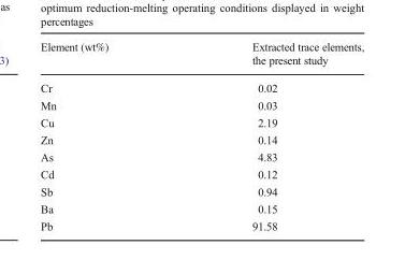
<table><thead><tr><td>Element (wt%)</td><td>Extracted trace elements, the present study</td></tr></thead><tbody><tr><td>Cr</td><td>0.02</td></tr><tr><td>Mn</td><td>0.03</td></tr><tr><td>Cu</td><td>2.19</td></tr><tr><td>Zn</td><td>0.14</td></tr><tr><td>As</td><td>4.83</td></tr><tr><td>Cd</td><td>0.12</td></tr><tr><td>Sb</td><td>0.94</td></tr><tr><td>Ba</td><td>0.15</td></tr><tr><td>Pb</td><td>91.58</td></tr></tbody></table>